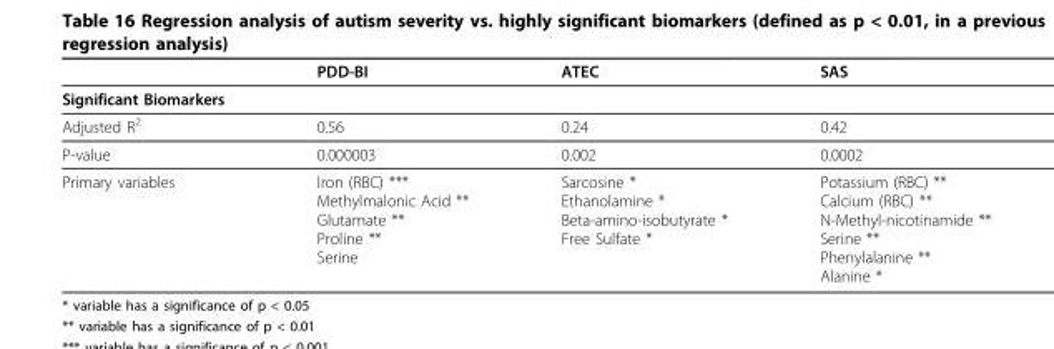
<table><thead><tr><td></td><td>PDD-BI</td><td>ATEC</td><td>SAS</td></tr></thead><tbody><tr><td colspan="4">Significant Biomarkers</td></tr><tr><td>Adjusted R<sup>2</sup></td><td>0.56</td><td>0.24</td><td>0.42</td></tr><tr><td>P-value</td><td>0.000003</td><td>0.002</td><td>0.0002</td></tr><tr><td>Primary variables</td><td>Iron (RBC) *** Methylmalonic Acid ** Glutamate ** Proline ** Serine</td><td>Sarcosine * Ethanolamine * Beta-amino-isobutyrate * Free Sulfate *</td><td>Potassium (RBC) ** Calcium (RBC) ** N-Methyl-nicotinamide ** Serine ** Phenylalanine ** Alanine *</td></tr></tbody></table>